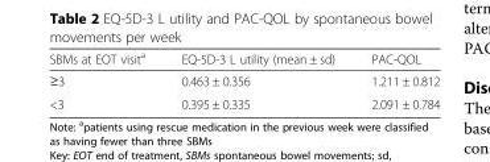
<table><thead><tr><td>SBMs at EOT visit<sup>a</sup></td><td>EQ-5D-3 L utility (mean ± sd)</td><td>PAC-QOL</td></tr></thead><tbody><tr><td>≥3</td><td>0.463 ± 0.356</td><td>1.211 ± 0.812</td></tr><tr><td>&lt;3</td><td>0.395 ± 0.335</td><td>2.091 ± 0.784</td></tr></tbody></table>